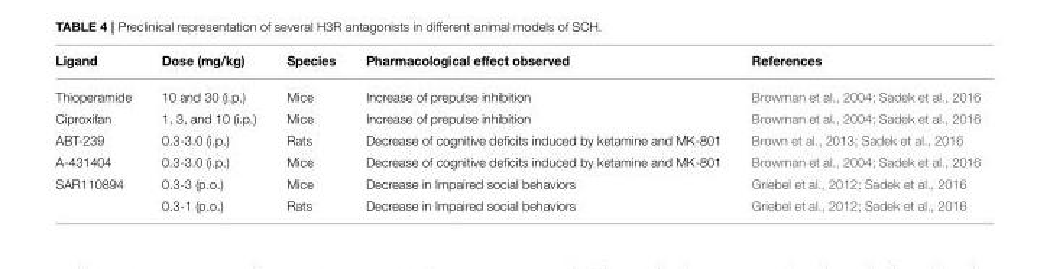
<table><thead><tr><td>Ligand</td><td>Dose (mg/kg)</td><td>Species</td><td>Pharmacological effect observed</td><td>References</td></tr></thead><tbody><tr><td>Thioperamide</td><td>10 and 30 (i.p.)</td><td>Mice</td><td>Increase of prepulse inhibition</td><td>Browman et al., 2004; Sadek et al., 2016</td></tr><tr><td>Ciproxifan</td><td>1, 3, and 10 (i.p.)</td><td>Mice</td><td>Increase of prepulse inhibition</td><td>Browman et al., 2004; Sadek et al., 2016</td></tr><tr><td>ABT-239</td><td>0.3-3.0 (i.p.)</td><td>Rats</td><td>Decrease of cognitive deficits induced by ketamine and MK-801</td><td>Brown et al., 2013; Sadek et al., 2016</td></tr><tr><td>A-431404</td><td>0.3-3.0 (i.p.)</td><td>Mice</td><td>Decrease of cognitive deficits induced by ketamine and MK-801</td><td>Browman et al., 2004; Sadek et al., 2016</td></tr><tr><td rowspan="2">SAR110894</td><td>0.3-3 (p.o.)</td><td>Mice</td><td>Decrease in Impaired social behaviors</td><td>Griebel et al., 2012; Sadek et al., 2016</td></tr><tr><td>0.3-1 (p.o.)</td><td>Rats</td><td>Decrease in Impaired social behaviors</td><td>Griebel et al., 2012; Sadek et al., 2016</td></tr></tbody></table>